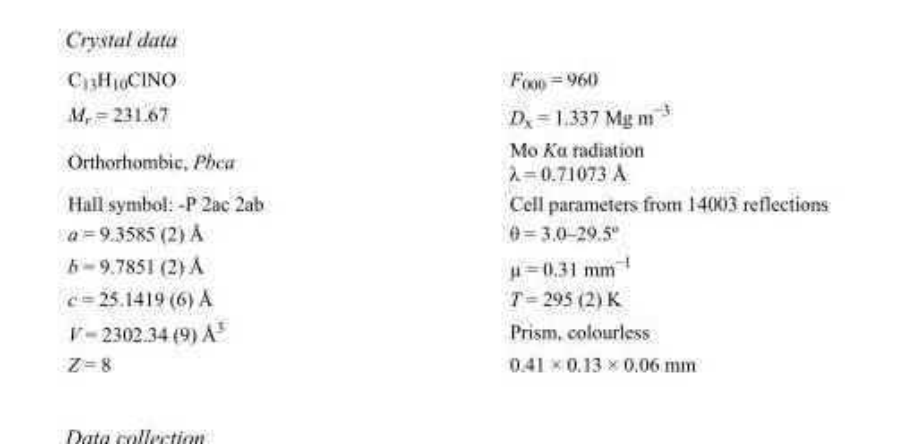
<table><tbody><tr><td>C<sub>13</sub>H<sub>10</sub>ClNO</td><td>F<sub>000</sub> = 960</td></tr><tr><td>M<sub>r</sub> = 231.67</td><td>D<sub>x</sub> = 1.337 Mg m<sup>−3</sup></td></tr><tr><td>Orthorhombic, Pbca</td><td>Mo Kα radiation λ = 0.71073 Å</td></tr><tr><td>Hall symbol: -P 2ac 2ab</td><td>Cell parameters from 14003 reflections</td></tr><tr><td>a = 9.3585 (2) Å</td><td>θ = 3.0–29.5º</td></tr><tr><td>b = 9.7851 (2) Å</td><td>µ = 0.31 mm<sup>−1</sup></td></tr><tr><td>c = 25.1419 (6) Å</td><td>T = 295 (2) K</td></tr><tr><td>V = 2302.34 (9) Å<sup>3</sup></td><td>Prism, colourless</td></tr><tr><td>Z = 8</td><td>0.41 × 0.13 × 0.06 mm</td></tr></tbody></table>